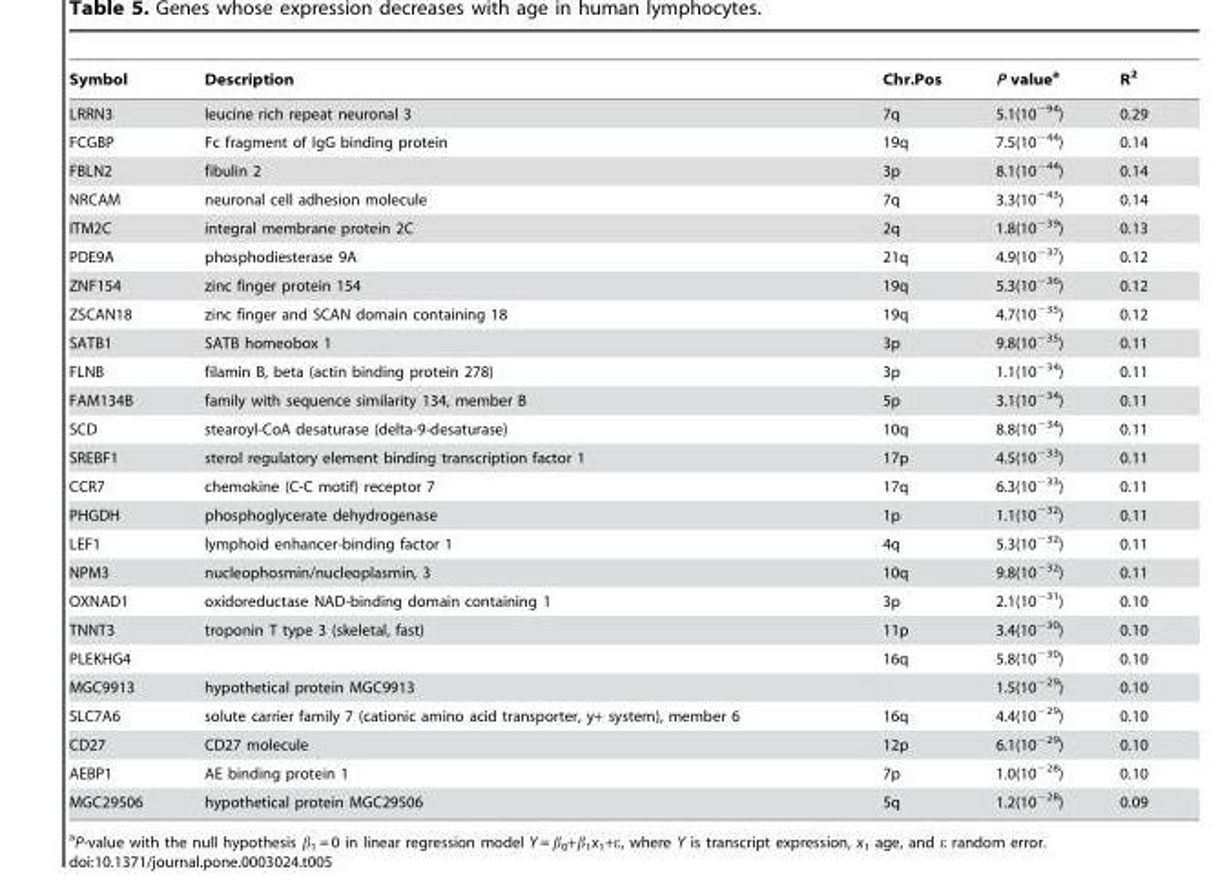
<table><thead><tr><td>Symbol</td><td>Description</td><td>Chr.Pos</td><td>P value<sup>a</sup></td><td>R<sup>2</sup></td></tr></thead><tbody><tr><td>LRRN3</td><td>leucine rich repeat neuronal 3</td><td>7q</td><td>5.1(10<sup>−94</sup>)</td><td>0.29</td></tr><tr><td>FCGBP</td><td>Fc fragment of IgG binding protein</td><td>19q</td><td>7.5(10<sup>−44</sup>)</td><td>0.14</td></tr><tr><td>FBLN2</td><td>fibulin 2</td><td>3p</td><td>8.1(10<sup>−44</sup>)</td><td>0.14</td></tr><tr><td>NRCAM</td><td>neuronal cell adhesion molecule</td><td>7q</td><td>3.3(10<sup>−43</sup>)</td><td>0.14</td></tr><tr><td>ITM2C</td><td>integral membrane protein 2C</td><td>2q</td><td>1.8(10<sup>−39</sup>)</td><td>0.13</td></tr><tr><td>PDE9A</td><td>phosphodiesterase 9A</td><td>21q</td><td>4.9(10<sup>−37</sup>)</td><td>0.12</td></tr><tr><td>ZNF154</td><td>zinc finger protein 154</td><td>19q</td><td>5.3(10<sup>−36</sup>)</td><td>0.12</td></tr><tr><td>ZSCAN18</td><td>zinc finger and SCAN domain containing 18</td><td>19q</td><td>4.7(10<sup>−35</sup>)</td><td>0.12</td></tr><tr><td>SATB1</td><td>SATB homeobox 1</td><td>3p</td><td>9.8(10<sup>−35</sup>)</td><td>0.11</td></tr><tr><td>FLNB</td><td>filamin B, beta (actin binding protein 278)</td><td>3p</td><td>1.1(10<sup>−34</sup>)</td><td>0.11</td></tr><tr><td>FAM134B</td><td>family with sequence similarity 134, member B</td><td>5p</td><td>3.1(10<sup>−34</sup>)</td><td>0.11</td></tr><tr><td>SCD</td><td>stearoyl-CoA desaturase (delta-9-desaturase)</td><td>10q</td><td>8.8(10<sup>−34</sup>)</td><td>0.11</td></tr><tr><td>SREBF1</td><td>sterol regulatory element binding transcription factor 1</td><td>17p</td><td>4.5(10<sup>−33</sup>)</td><td>0.11</td></tr><tr><td>CCR7</td><td>chemokine (C-C motif) receptor 7</td><td>17q</td><td>6.3(10<sup>−33</sup>)</td><td>0.11</td></tr><tr><td>PHGDH</td><td>phosphoglycerate dehydrogenase</td><td>1p</td><td>1.1(10<sup>−32</sup>)</td><td>0.11</td></tr><tr><td>LEF1</td><td>lymphoid enhancer-binding factor 1</td><td>4q</td><td>5.3(10<sup>−32</sup>)</td><td>0.11</td></tr><tr><td>NPM3</td><td>nucleophosmin/nucleoplasmin, 3</td><td>10q</td><td>9.8(10<sup>−32</sup>)</td><td>0.11</td></tr><tr><td>OXNAD1</td><td>oxidoreductase NAD-binding domain containing 1</td><td>3p</td><td>2.1(10<sup>−31</sup>)</td><td>0.10</td></tr><tr><td>TNNT3</td><td>troponin T type 3 (skeletal, fast)</td><td>11p</td><td>3.4(10<sup>−30</sup>)</td><td>0.10</td></tr><tr><td>PLEKHG4</td><td></td><td>16q</td><td>5.8(10<sup>−30</sup>)</td><td>0.10</td></tr><tr><td>MGC9913</td><td>hypothetical protein MGC9913</td><td></td><td>1.5(10<sup>−29</sup>)</td><td>0.10</td></tr><tr><td>SLC7A6</td><td>solute carrier family 7 (cationic amino acid transporter, y+ system), member 6</td><td>16q</td><td>4.4(10<sup>−29</sup>)</td><td>0.10</td></tr><tr><td>CD27</td><td>CD27 molecule</td><td>12p</td><td>6.1(10<sup>−29</sup>)</td><td>0.10</td></tr><tr><td>AEBP1</td><td>AE binding protein 1</td><td>7p</td><td>1.0(10<sup>−28</sup>)</td><td>0.10</td></tr><tr><td>MGC29506</td><td>hypothetical protein MGC29506</td><td>5q</td><td>1.2(10<sup>−28</sup>)</td><td>0.09</td></tr></tbody></table>